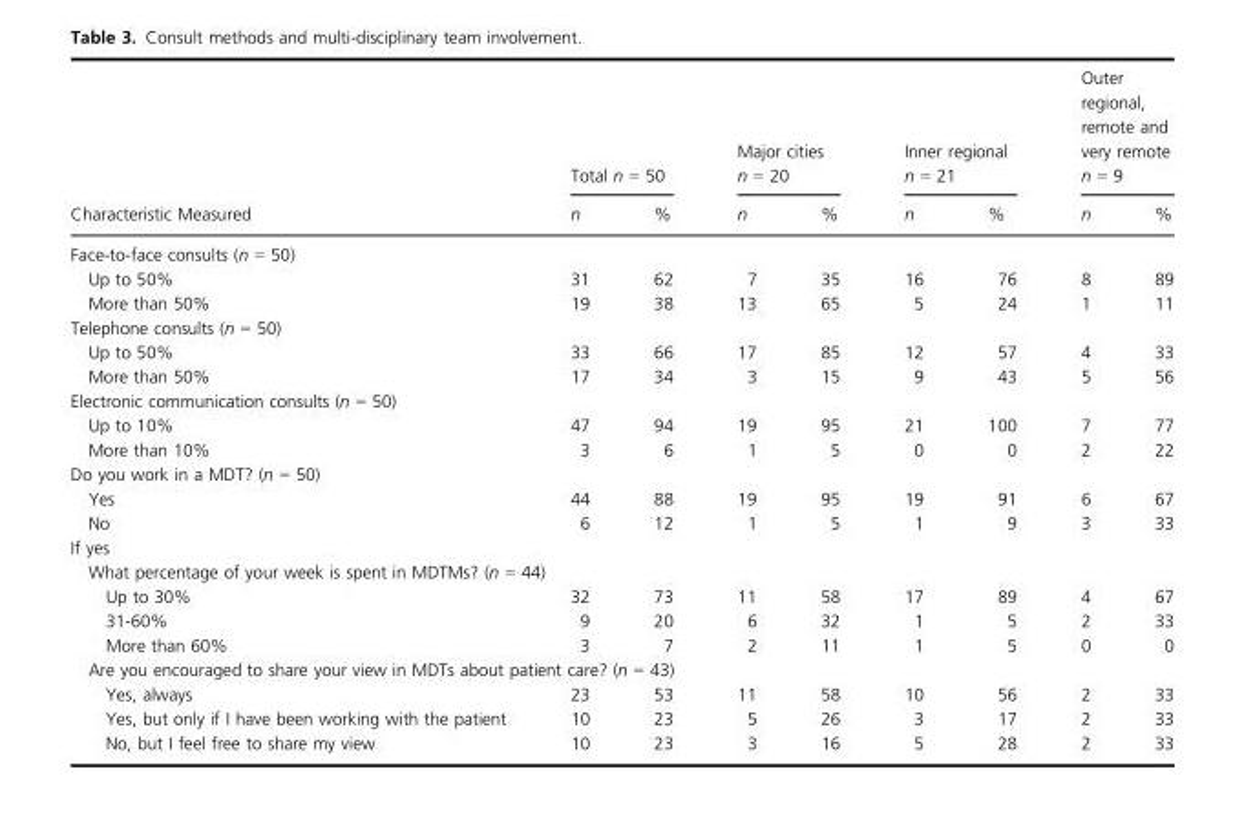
<table><thead><tr><td rowspan="2">Characteristic Measured</td><td colspan="2">Total n = 50</td><td colspan="2">Major cities n = 20</td><td colspan="2">Inner regional n = 21</td><td colspan="2">Outer regional, remote and very remote n = 9</td></tr><tr><td>n</td><td>%</td><td>n</td><td>%</td><td>n</td><td>%</td><td>n</td><td>%</td></tr></thead><tbody><tr><td colspan="9">Face-to-face consults (n = 50)</td></tr><tr><td>Up to 50%</td><td>31</td><td>62</td><td>7</td><td>35</td><td>16</td><td>76</td><td>8</td><td>89</td></tr><tr><td>More than 50%</td><td>19</td><td>38</td><td>13</td><td>65</td><td>5</td><td>24</td><td>1</td><td>11</td></tr><tr><td colspan="9">Telephone consults (n = 50)</td></tr><tr><td>Up to 50%</td><td>33</td><td>66</td><td>17</td><td>85</td><td>12</td><td>57</td><td>4</td><td>33</td></tr><tr><td>More than 50%</td><td>17</td><td>34</td><td>3</td><td>15</td><td>9</td><td>43</td><td>5</td><td>56</td></tr><tr><td colspan="9">Electronic communication consults (n = 50)</td></tr><tr><td>Up to 10%</td><td>47</td><td>94</td><td>19</td><td>95</td><td>21</td><td>100</td><td>7</td><td>77</td></tr><tr><td>More than 10%</td><td>3</td><td>6</td><td>1</td><td>5</td><td>0</td><td>0</td><td>2</td><td>22</td></tr><tr><td colspan="9">Do you work in a MDT? (n = 50)</td></tr><tr><td>Yes</td><td>44</td><td>88</td><td>19</td><td>95</td><td>19</td><td>91</td><td>6</td><td>67</td></tr><tr><td>No</td><td>6</td><td>12</td><td>1</td><td>5</td><td>1</td><td>9</td><td>3</td><td>33</td></tr><tr><td colspan="9">If yes</td></tr><tr><td colspan="9">What percentage of your week is spent in MDTMs? (n = 44)</td></tr><tr><td>Up to 30%</td><td>32</td><td>73</td><td>11</td><td>58</td><td>17</td><td>89</td><td>4</td><td>67</td></tr><tr><td>31-60%</td><td>9</td><td>20</td><td>6</td><td>32</td><td>1</td><td>5</td><td>2</td><td>33</td></tr><tr><td>More than 60%</td><td>3</td><td>7</td><td>2</td><td>11</td><td>1</td><td>5</td><td>0</td><td>0</td></tr><tr><td colspan="9">Are you encouraged to share your view in MDTs about patient care? (n = 43)</td></tr><tr><td>Yes, always</td><td>23</td><td>53</td><td>11</td><td>58</td><td>10</td><td>56</td><td>2</td><td>33</td></tr><tr><td>Yes, but only if I have been working with the patient</td><td>10</td><td>23</td><td>5</td><td>26</td><td>3</td><td>17</td><td>2</td><td>33</td></tr><tr><td>No, but I feel free to share my view</td><td>10</td><td>23</td><td>3</td><td>16</td><td>5</td><td>28</td><td>2</td><td>33</td></tr></tbody></table>